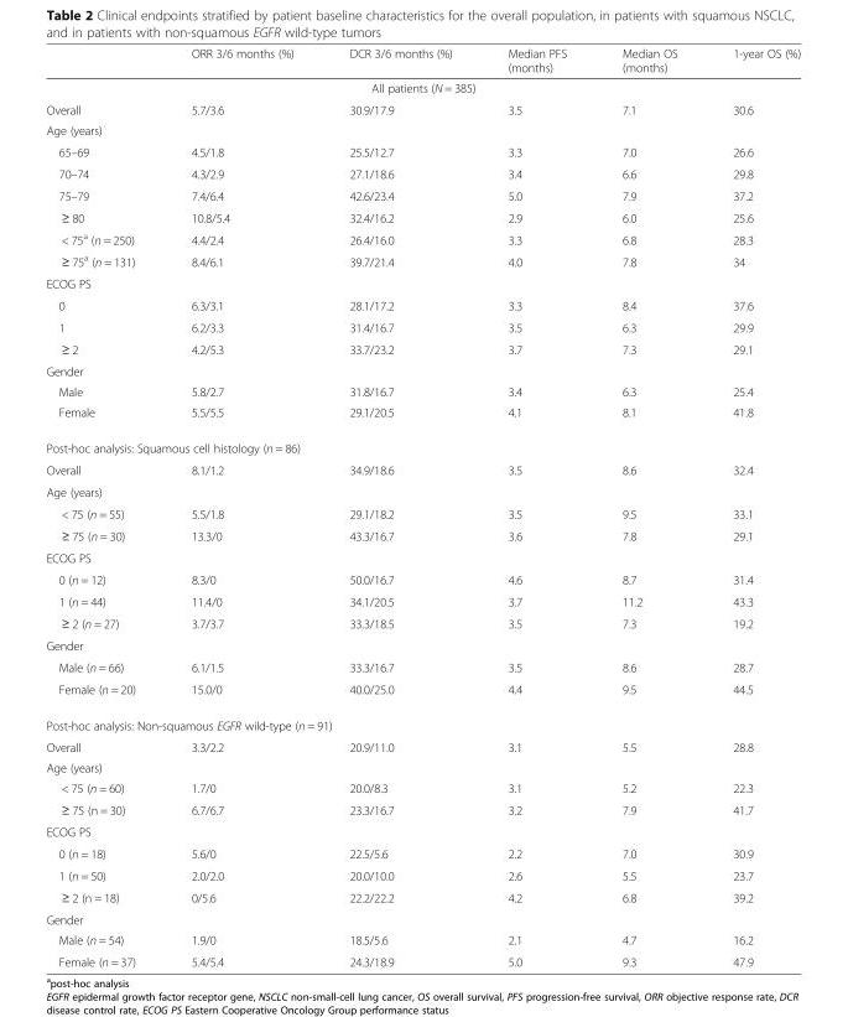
<table><thead><tr><td></td><td>ORR 3/6 months (%)</td><td>DCR 3/6 months (%)</td><td>Median PFS (months)</td><td>Median OS (months)</td><td>1-year OS (%)</td></tr></thead><tbody><tr><td colspan="6">All patients (N = 385)</td></tr><tr><td>Overall</td><td>5.7/3.6</td><td>30.9/17.9</td><td>3.5</td><td>7.1</td><td>30.6</td></tr><tr><td colspan="6">Age (years)</td></tr><tr><td>65–69</td><td>4.5/1.8</td><td>25.5/12.7</td><td>3.3</td><td>7.0</td><td>26.6</td></tr><tr><td>70–74</td><td>4.3/2.9</td><td>27.1/18.6</td><td>3.4</td><td>6.6</td><td>29.8</td></tr><tr><td>75–79</td><td>7.4/6.4</td><td>42.6/23.4</td><td>5.0</td><td>7.9</td><td>37.2</td></tr><tr><td>≥ 80</td><td>10.8/5.4</td><td>32.4/16.2</td><td>2.9</td><td>6.0</td><td>25.6</td></tr><tr><td>&lt; 75<sup>a</sup> (n = 250)</td><td>4.4/2.4</td><td>26.4/16.0</td><td>3.3</td><td>6.8</td><td>28.3</td></tr><tr><td>≥ 75<sup>a</sup> (n = 131)</td><td>8.4/6.1</td><td>39.7/21.4</td><td>4.0</td><td>7.8</td><td>34</td></tr><tr><td colspan="6">ECOG PS</td></tr><tr><td>0</td><td>6.3/3.1</td><td>28.1/17.2</td><td>3.3</td><td>8.4</td><td>37.6</td></tr><tr><td>1</td><td>6.2/3.3</td><td>31.4/16.7</td><td>3.5</td><td>6.3</td><td>29.9</td></tr><tr><td>≥ 2</td><td>4.2/5.3</td><td>33.7/23.2</td><td>3.7</td><td>7.3</td><td>29.1</td></tr><tr><td colspan="6">Gender</td></tr><tr><td>Male</td><td>5.8/2.7</td><td>31.8/16.7</td><td>3.4</td><td>6.3</td><td>25.4</td></tr><tr><td>Female</td><td>5.5/5.5</td><td>29.1/20.5</td><td>4.1</td><td>8.1</td><td>41.8</td></tr><tr><td colspan="6">Post-hoc analysis: Squamous cell histology (n = 86)</td></tr><tr><td>Overall</td><td>8.1/1.2</td><td>34.9/18.6</td><td>3.5</td><td>8.6</td><td>32.4</td></tr><tr><td colspan="6">Age (years)</td></tr><tr><td>&lt; 75 (n = 55)</td><td>5.5/1.8</td><td>29.1/18.2</td><td>3.5</td><td>9.5</td><td>33.1</td></tr><tr><td>≥ 75 (n = 30)</td><td>13.3/0</td><td>43.3/16.7</td><td>3.6</td><td>7.8</td><td>29.1</td></tr><tr><td colspan="6">ECOG PS</td></tr><tr><td>0 (n = 12)</td><td>8.3/0</td><td>50.0/16.7</td><td>4.6</td><td>8.7</td><td>31.4</td></tr><tr><td>1 (n = 44)</td><td>11.4/0</td><td>34.1/20.5</td><td>3.7</td><td>11.2</td><td>43.3</td></tr><tr><td>≥ 2 (n = 27)</td><td>3.7/3.7</td><td>33.3/18.5</td><td>3.5</td><td>7.3</td><td>19.2</td></tr><tr><td colspan="6">Gender</td></tr><tr><td>Male (n = 66)</td><td>6.1/1.5</td><td>33.3/16.7</td><td>3.5</td><td>8.6</td><td>28.7</td></tr><tr><td>Female (n = 20)</td><td>15.0/0</td><td>40.0/25.0</td><td>4.4</td><td>9.5</td><td>44.5</td></tr><tr><td colspan="6">Post-hoc analysis: Non-squamous EGFR wild-type (n = 91)</td></tr><tr><td>Overall</td><td>3.3/2.2</td><td>20.9/11.0</td><td>3.1</td><td>5.5</td><td>28.8</td></tr><tr><td colspan="6">Age (years)</td></tr><tr><td>&lt; 75 (n = 60)</td><td>1.7/0</td><td>20.0/8.3</td><td>3.1</td><td>5.2</td><td>22.3</td></tr><tr><td>≥ 75 (n = 30)</td><td>6.7/6.7</td><td>23.3/16.7</td><td>3.2</td><td>7.9</td><td>41.7</td></tr><tr><td colspan="6">ECOG PS</td></tr><tr><td>0 (n = 18)</td><td>5.6/0</td><td>22.5/5.6</td><td>2.2</td><td>7.0</td><td>30.9</td></tr><tr><td>1 (n = 50)</td><td>2.0/2.0</td><td>20.0/10.0</td><td>2.6</td><td>5.5</td><td>23.7</td></tr><tr><td>≥ 2 (n = 18)</td><td>0/5.6</td><td>22.2/22.2</td><td>4.2</td><td>6.8</td><td>39.2</td></tr><tr><td colspan="6">Gender</td></tr><tr><td>Male (n = 54)</td><td>1.9/0</td><td>18.5/5.6</td><td>2.1</td><td>4.7</td><td>16.2</td></tr><tr><td>Female (n = 37)</td><td>5.4/5.4</td><td>24.3/18.9</td><td>5.0</td><td>9.3</td><td>47.9</td></tr></tbody></table>